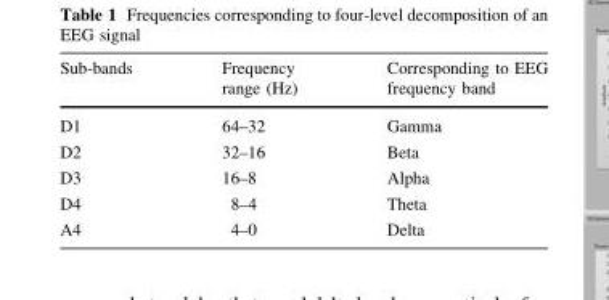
<table><thead><tr><td>Sub-bands</td><td>Frequency range (Hz)</td><td>Corresponding to EEG frequency band</td></tr></thead><tbody><tr><td>D1</td><td>64–32</td><td>Gamma</td></tr><tr><td>D2</td><td>32–16</td><td>Beta</td></tr><tr><td>D3</td><td>16–8</td><td>Alpha</td></tr><tr><td>D4</td><td>8–4</td><td>Theta</td></tr><tr><td>A4</td><td>4–0</td><td>Delta</td></tr></tbody></table>